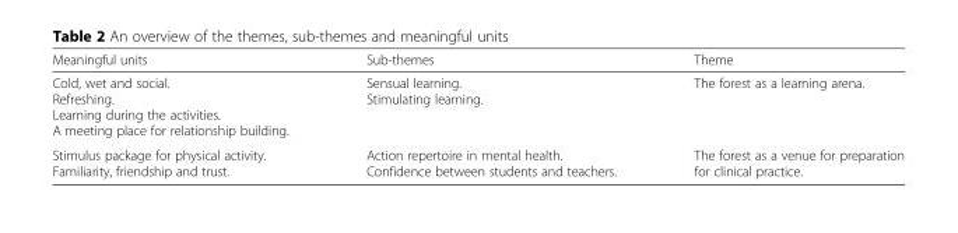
<table><thead><tr><td>Meaningful units</td><td>Sub-themes</td><td>Theme</td></tr></thead><tbody><tr><td>Cold, wet and social. Refreshing. Learning during the activities. A meeting place for relationship building.</td><td>Sensual learning. Stimulating learning.</td><td>The forest as a learning arena.</td></tr><tr><td>Stimulus package for physical activity. Familiarity, friendship and trust.</td><td>Action repertoire in mental health. Confidence between students and teachers.</td><td>The forest as a venue for preparation for clinical practice.</td></tr></tbody></table>